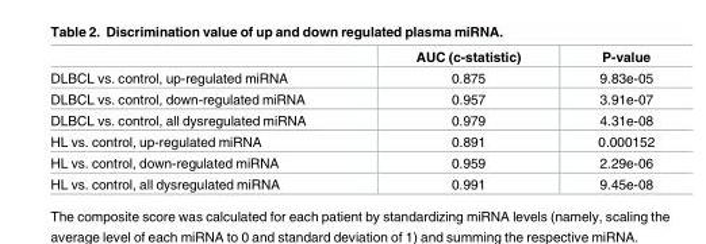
<table><thead><tr><td></td><td>AUC (c-statistic)</td><td>P-value</td></tr></thead><tbody><tr><td>DLBCL vs. control, up-regulated miRNA</td><td>0.875</td><td>9.83e-05</td></tr><tr><td>DLBCL vs. control, down-regulated miRNA</td><td>0.957</td><td>3.91e-07</td></tr><tr><td>DLBCL vs. control, all dysregulated miRNA</td><td>0.979</td><td>4.31e-08</td></tr><tr><td>HL vs. control, up-regulated miRNA</td><td>0.891</td><td>0.000152</td></tr><tr><td>HL vs. control, down-regulated miRNA</td><td>0.959</td><td>2.29e-06</td></tr><tr><td>HL vs. control, all dysregulated miRNA</td><td>0.991</td><td>9.45e-08</td></tr></tbody></table>